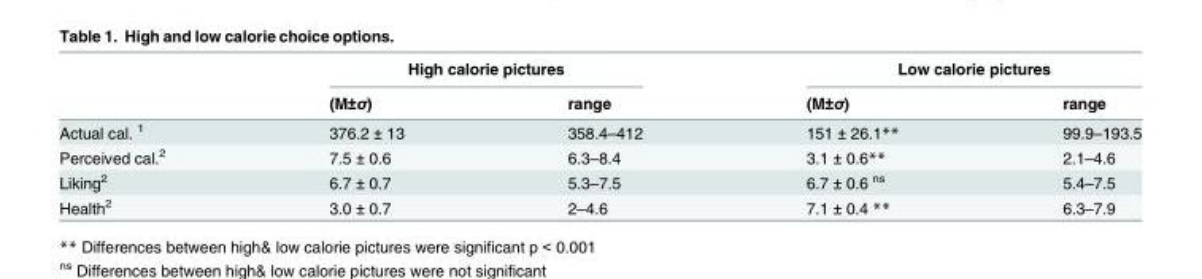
<table><thead><tr><td rowspan="2"></td><td colspan="2">High calorie pictures</td><td colspan="2">Low calorie pictures</td></tr><tr><td>(M±σ)</td><td>range</td><td>(M±σ)</td><td>range</td></tr></thead><tbody><tr><td>Actual cal. <sup>1</sup></td><td>376.2 ± 13</td><td>358.4–412</td><td>151 ± 26.1**</td><td>99.9–193.5</td></tr><tr><td>Perceived cal.<sup>2</sup></td><td>7.5 ± 0.6</td><td>6.3–8.4</td><td>3.1 ± 0.6**</td><td>2.1–4.6</td></tr><tr><td>Liking<sup>2</sup></td><td>6.7 ± 0.7</td><td>5.3–7.5</td><td>6.7 ± 0.6 <sup>ns</sup></td><td>5.4–7.5</td></tr><tr><td>Health<sup>2</sup></td><td>3.0 ± 0.7</td><td>2–4.6</td><td>7.1 ± 0.4 **</td><td>6.3–7.9</td></tr></tbody></table>